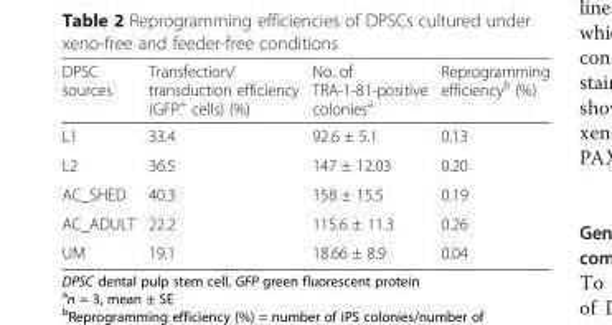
<table><thead><tr><td>DPSC sources</td><td>Transfection/ transduction efficiency (GFP<sup>+</sup> cells) (%)</td><td>No. of TRA-1-81-positive colonies<sup>a</sup></td><td>Reprogramming efficiency<sup>b</sup> (%)</td></tr></thead><tbody><tr><td>L1</td><td>33.4</td><td>92.6 ± 5.1</td><td>0.13</td></tr><tr><td>L2</td><td>36.5</td><td>147 ± 12.03</td><td>0.20</td></tr><tr><td>AC_SHED</td><td>40.3</td><td>158 ± 15.5</td><td>0.19</td></tr><tr><td>AC_ADULT</td><td>22.2</td><td>115.6 ± 11.3</td><td>0.26</td></tr><tr><td>UM</td><td>19.1</td><td>18.66 ± 8.9</td><td>0.04</td></tr></tbody></table>